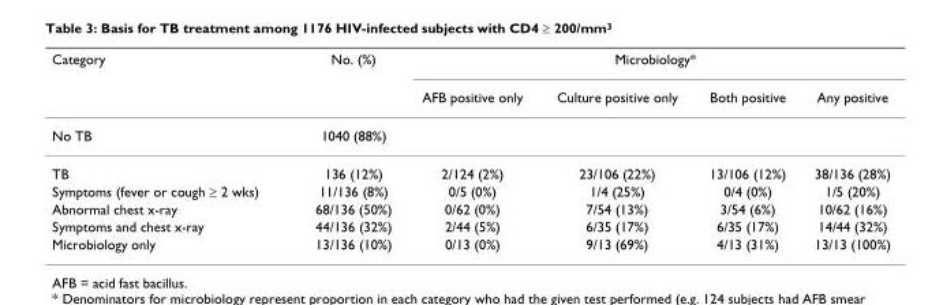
<table><thead><tr><td rowspan="2">Category</td><td rowspan="2">No. (%)</td><td colspan="4">Microbiology*</td></tr><tr><td>AFB positive only</td><td>Culture positive only</td><td>Both positive</td><td>Any positive</td></tr></thead><tbody><tr><td>No TB</td><td>1040 (88%)</td><td></td><td></td><td></td><td></td></tr><tr><td>TB</td><td>136 (12%)</td><td>2/124 (2%)</td><td>23/106 (22%)</td><td>13/106 (12%)</td><td>38/136 (28%)</td></tr><tr><td>Symptoms (fever or cough ≥ 2 wks)</td><td>11/136 (8%)</td><td>0/5 (0%)</td><td>1/4 (25%)</td><td>0/4 (0%)</td><td>1/5 (20%)</td></tr><tr><td>Abnormal chest x-ray</td><td>68/136 (50%)</td><td>0/62 (0%)</td><td>7/54 (13%)</td><td>3/54 (6%)</td><td>10/62 (16%)</td></tr><tr><td>Symptoms and chest x-ray</td><td>44/136 (32%)</td><td>2/44 (5%)</td><td>6/35 (17%)</td><td>6/35 (17%)</td><td>14/44 (32%)</td></tr><tr><td>Microbiology only</td><td>13/136 (10%)</td><td>0/13 (0%)</td><td>9/13 (69%)</td><td>4/13 (31%)</td><td>13/13 (100%)</td></tr></tbody></table>